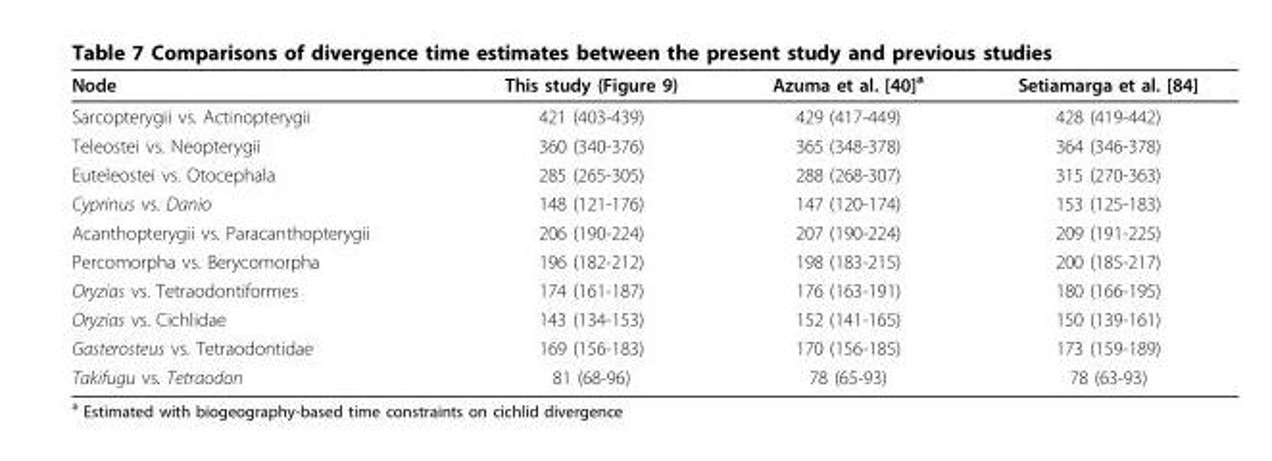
<table><thead><tr><td>Node</td><td>This study (Figure 9)</td><td>Azuma et al. [40]<sup>a</sup></td><td>Setiamarga et al. [84]</td></tr></thead><tbody><tr><td>Sarcopterygii vs. Actinopterygii</td><td>421 (403-439)</td><td>429 (417-449)</td><td>428 (419-442)</td></tr><tr><td>Teleostei vs. Neopterygii</td><td>360 (340-376)</td><td>365 (348-378)</td><td>364 (346-378)</td></tr><tr><td>Euteleostei vs. Otocephala</td><td>285 (265-305)</td><td>288 (268-307)</td><td>315 (270-363)</td></tr><tr><td>Cyprinus vs. Danio</td><td>148 (121-176)</td><td>147 (120-174)</td><td>153 (125-183)</td></tr><tr><td>Acanthopterygii vs. Paracanthopterygii</td><td>206 (190-224)</td><td>207 (190-224)</td><td>209 (191-225)</td></tr><tr><td>Percomorpha vs. Berycomorpha</td><td>196 (182-212)</td><td>198 (183-215)</td><td>200 (185-217)</td></tr><tr><td>Oryzias vs. Tetraodontiformes</td><td>174 (161-187)</td><td>176 (163-191)</td><td>180 (166-195)</td></tr><tr><td>Oryzias vs. Cichlidae</td><td>143 (134-153)</td><td>152 (141-165)</td><td>150 (139-161)</td></tr><tr><td>Gasterosteus vs. Tetraodontidae</td><td>169 (156-183)</td><td>170 (156-185)</td><td>173 (159-189)</td></tr><tr><td>Takifugu vs. Tetraodon</td><td>81 (68-96)</td><td>78 (65-93)</td><td>78 (63-93)</td></tr></tbody></table>